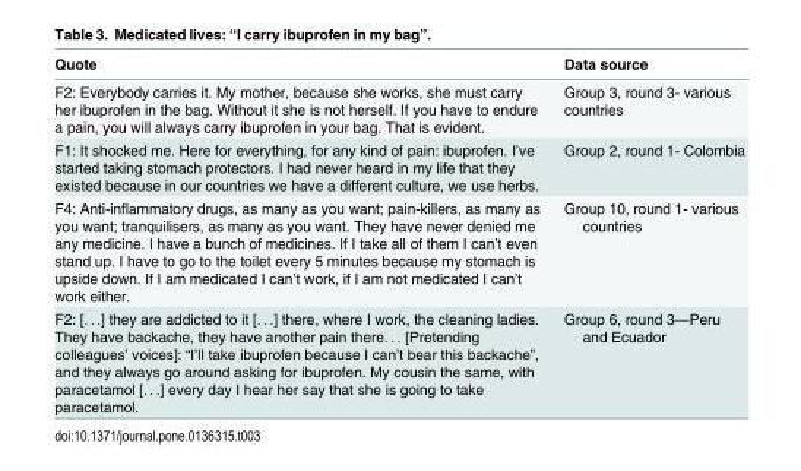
<table><thead><tr><td>Quote</td><td>Data source</td></tr></thead><tbody><tr><td>F2: Everybody carries it. My mother, because she works, she must carry her ibuprofen in the bag. Without it she is not herself. If you have to endure a pain, you will always carry ibuprofen in your bag. That is evident.</td><td>Group 3, round 3- various countries</td></tr><tr><td>F1: It shocked me. Here for everything, for any kind of pain: ibuprofen. I’ve started taking stomach protectors. I had never heard in my life that they existed because in our countries we have a different culture, we use herbs.</td><td>Group 2, round 1- Colombia</td></tr><tr><td>F4: Anti-inflammatory drugs, as many as you want; pain-killers, as many as you want; tranquilisers, as many as you want. They have never denied me any medicine. I have a bunch of medicines. If I take all of them I can’t even stand up. I have to go to the toilet every 5 minutes because my stomach is upside down. If I am medicated I can’t work, if I am not medicated I can’t work either.</td><td>Group 10, round 1- various countries</td></tr><tr><td>F2: [. . .] they are addicted to it [. . .] there, where I work, the cleaning ladies. They have backache, they have another pain there. . . [Pretending colleagues’ voices]: “I’ll take ibuprofen because I can’t bear this backache”, and they always go around asking for ibuprofen. My cousin the same, with paracetamol [. . .] every day I hear her say that she is going to take paracetamol.</td><td>Group 6, round 3—Peru and Ecuador</td></tr></tbody></table>